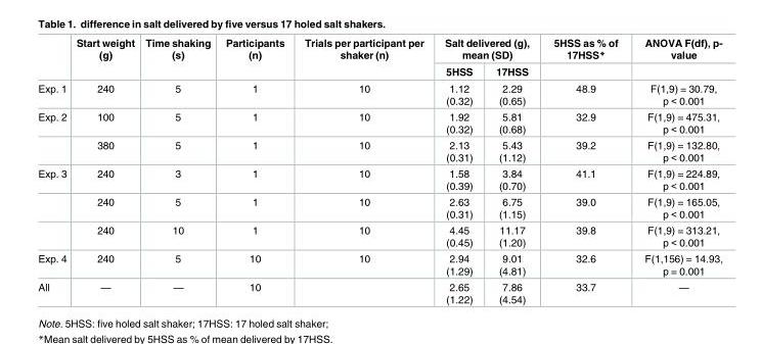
<table><thead><tr><td rowspan="2"></td><td rowspan="2">Start weight (g)</td><td rowspan="2">Time shaking (s)</td><td rowspan="2">Participants (n)</td><td rowspan="2">Trials per participant per shaker (n)</td><td colspan="2">Salt delivered (g), mean (SD)</td><td rowspan="2">5HSS as % of 17HSS*</td><td rowspan="2">ANOVA F(df), p- value</td></tr><tr><td>5HSS</td><td>17HSS</td></tr></thead><tbody><tr><td>Exp. 1</td><td>240</td><td>5</td><td>1</td><td>10</td><td>1.12 (0.32)</td><td>2.29 (0.65)</td><td>48.9</td><td>F(1,9) = 30.79, p &lt; 0.001</td></tr><tr><td rowspan="2">Exp. 2</td><td>100</td><td>5</td><td>1</td><td>10</td><td>1.92 (0.32)</td><td>5.81 (0.68)</td><td>32.9</td><td>F(1,9) = 475.31, p &lt; 0.001</td></tr><tr><td>380</td><td>5</td><td>1</td><td>10</td><td>2.13 (0.31)</td><td>5.43 (1.12)</td><td>39.2</td><td>F(1,9) = 132.80, p &lt; 0.001</td></tr><tr><td rowspan="3">Exp. 3</td><td>240</td><td>3</td><td>1</td><td>10</td><td>1.58 (0.39)</td><td>3.84 (0.70)</td><td>41.1</td><td>F(1,9) = 224.89, p &lt; 0.001</td></tr><tr><td>240</td><td>5</td><td>1</td><td>10</td><td>2.63 (0.31)</td><td>6.75 (1.15)</td><td>39.0</td><td>F(1,9) = 165.05, p &lt; 0.001</td></tr><tr><td>240</td><td>10</td><td>1</td><td>10</td><td>4.45 (0.45)</td><td>11.17 (1.20)</td><td>39.8</td><td>F(1,9) = 313.21, p &lt; 0.001</td></tr><tr><td>Exp. 4</td><td>240</td><td>5</td><td>10</td><td>10</td><td>2.94 (1.29)</td><td>9.01 (4.81)</td><td>32.6</td><td>F(1,156) = 14.93, p = 0.001</td></tr><tr><td>All</td><td>—</td><td>—</td><td>10</td><td></td><td>2.65 (1.22)</td><td>7.86 (4.54)</td><td>33.7</td><td>—</td></tr></tbody></table>